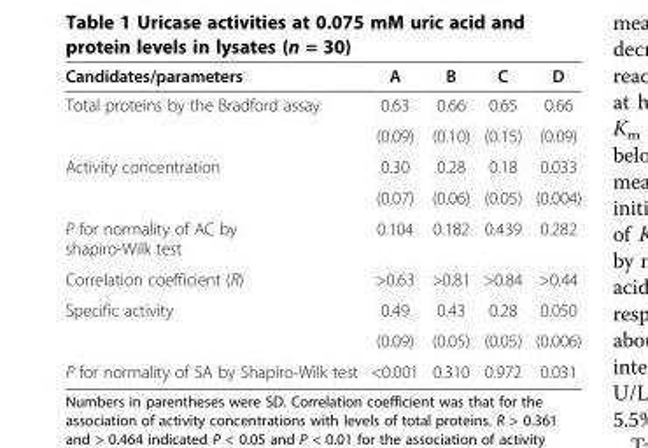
<table><thead><tr><td>Candidates/parameters</td><td>A</td><td>B</td><td>C</td><td>D</td></tr></thead><tbody><tr><td rowspan="2">Total proteins by the Bradford assay</td><td>0.63</td><td>0.66</td><td>0.65</td><td>0.66</td></tr><tr><td>(0.09)</td><td>(0.10)</td><td>(0.15)</td><td>(0.09)</td></tr><tr><td rowspan="2">Activity concentration</td><td>0.30</td><td>0.28</td><td>0.18</td><td>0.033</td></tr><tr><td>(0.07)</td><td>(0.06)</td><td>(0.05)</td><td>(0.004)</td></tr><tr><td>P for normality of AC by shapiro-Wilk test</td><td>0.104</td><td>0.182</td><td>0.439</td><td>0.282</td></tr><tr><td>Correlation coefficient (R)</td><td>&gt;0.63</td><td>&gt;0.81</td><td>&gt;0.84</td><td>&gt;0.44</td></tr><tr><td rowspan="2">Specific activity</td><td>0.49</td><td>0.43</td><td>0.28</td><td>0.050</td></tr><tr><td>(0.09)</td><td>(0.05)</td><td>(0.05)</td><td>(0.006)</td></tr><tr><td>P for normality of SA by Shapiro-Wilk test</td><td>&lt;0.001</td><td>0.310</td><td>0.972</td><td>0.031</td></tr></tbody></table>